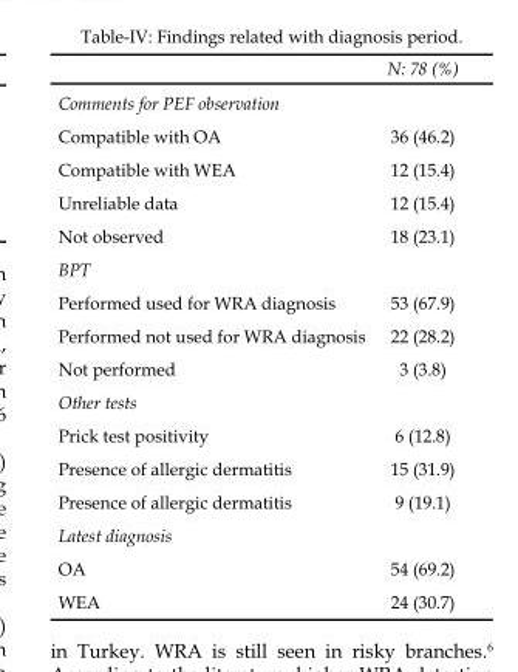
<table><thead><tr><td></td><td>N: 78 (%)</td></tr></thead><tbody><tr><td colspan="2">Comments for PEF observation</td></tr><tr><td>Compatible with OA</td><td>36 (46.2)</td></tr><tr><td>Compatible with WEA</td><td>12 (15.4)</td></tr><tr><td>Unreliable data</td><td>12 (15.4)</td></tr><tr><td>Not observed</td><td>18 (23.1)</td></tr><tr><td colspan="2">BPT</td></tr><tr><td>Performed used for WRA diagnosis</td><td>53 (67.9)</td></tr><tr><td>Performed not used for WRA diagnosis</td><td>22 (28.2)</td></tr><tr><td>Not performed</td><td>3 (3.8)</td></tr><tr><td colspan="2">Other tests</td></tr><tr><td>Prick test positivity</td><td>6 (12.8)</td></tr><tr><td>Presence of allergic dermatitis</td><td>15 (31.9)</td></tr><tr><td>Presence of allergic dermatitis</td><td>9 (19.1)</td></tr><tr><td colspan="2">Latest diagnosis</td></tr><tr><td>OA</td><td>54 (69.2)</td></tr><tr><td>WEA</td><td>24 (30.7)</td></tr></tbody></table>